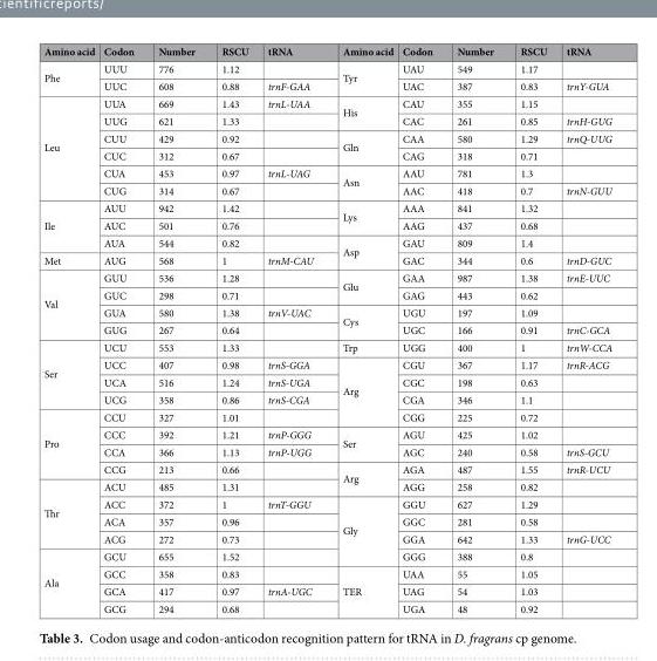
<table><thead><tr><td>Amino acid</td><td>Codon</td><td>Number</td><td>RSCU</td><td>tRNA</td><td>Amino acid</td><td>Codon</td><td>Number</td><td>RSCU</td><td>tRNA</td></tr></thead><tbody><tr><td rowspan="2">Phe</td><td>UUU</td><td>776</td><td>1.12</td><td></td><td rowspan="2">Tyr</td><td>UAU</td><td>549</td><td>1.17</td><td></td></tr><tr><td>UUC</td><td>608</td><td>0.88</td><td>trnF-GAA</td><td>UAC</td><td>387</td><td>0.83</td><td>trnY-GUA</td></tr><tr><td rowspan="6">Leu</td><td>UUA</td><td>669</td><td>1.43</td><td>trnL-UAA</td><td rowspan="2">His</td><td>CAU</td><td>355</td><td>1.15</td><td></td></tr><tr><td>UUG</td><td>621</td><td>1.33</td><td></td><td>CAC</td><td>261</td><td>0.85</td><td>trnH-GUG</td></tr><tr><td>CUU</td><td>429</td><td>0.92</td><td></td><td rowspan="2">Gln</td><td>CAA</td><td>580</td><td>1.29</td><td>trnQ-UUG</td></tr><tr><td>CUC</td><td>312</td><td>0.67</td><td></td><td>CAG</td><td>318</td><td>0.71</td><td></td></tr><tr><td>CUA</td><td>453</td><td>0.97</td><td>trnL-UAG</td><td rowspan="2">Asn</td><td>AAU</td><td>781</td><td>1.3</td><td></td></tr><tr><td>CUG</td><td>314</td><td>0.67</td><td></td><td>AAC</td><td>418</td><td>0.7</td><td>trnN-GUU</td></tr><tr><td rowspan="3">Ile</td><td>AUU</td><td>942</td><td>1.42</td><td></td><td rowspan="2">Lys</td><td>AAA</td><td>841</td><td>1.32</td><td></td></tr><tr><td>AUC</td><td>501</td><td>0.76</td><td></td><td>AAG</td><td>437</td><td>0.68</td><td></td></tr><tr><td>AUA</td><td>544</td><td>0.82</td><td></td><td rowspan="2">Asp</td><td>GAU</td><td>809</td><td>1.4</td><td></td></tr><tr><td>Met</td><td>AUG</td><td>568</td><td>1</td><td>trnM-CAU</td><td>GAC</td><td>344</td><td>0.6</td><td>trnD-GUC</td></tr><tr><td rowspan="4">Val</td><td>GUU</td><td>536</td><td>1.28</td><td></td><td rowspan="2">Glu</td><td>GAA</td><td>987</td><td>1.38</td><td>trnE-UUC</td></tr><tr><td>GUC</td><td>298</td><td>0.71</td><td></td><td>GAG</td><td>443</td><td>0.62</td><td></td></tr><tr><td>GUA</td><td>580</td><td>1.38</td><td>trnV-UAC</td><td rowspan="2">Cys</td><td>UGU</td><td>197</td><td>1.09</td><td></td></tr><tr><td>GUG</td><td>267</td><td>0.64</td><td></td><td>UGC</td><td>166</td><td>0.91</td><td>trnC-GCA</td></tr><tr><td rowspan="4">Ser</td><td>UCU</td><td>553</td><td>1.33</td><td></td><td>Trp</td><td>UGG</td><td>400</td><td>1</td><td>trnW-CCA</td></tr><tr><td>UCC</td><td>407</td><td>0.98</td><td>trnS-GGA</td><td rowspan="4">Arg</td><td>CGU</td><td>367</td><td>1.17</td><td>trnR-ACG</td></tr><tr><td>UCA</td><td>516</td><td>1.24</td><td>trnS-UGA</td><td>CGC</td><td>198</td><td>0.63</td><td></td></tr><tr><td>UCG</td><td>358</td><td>0.86</td><td>trnS-CGA</td><td>CGA</td><td>346</td><td>1.1</td><td></td></tr><tr><td rowspan="4">Pro</td><td>CCU</td><td>327</td><td>1.01</td><td></td><td>CGG</td><td>225</td><td>0.72</td><td></td></tr><tr><td>CCC</td><td>392</td><td>1.21</td><td>trnP-GGG</td><td rowspan="2">Ser</td><td>AGU</td><td>425</td><td>1.02</td><td></td></tr><tr><td>CCA</td><td>366</td><td>1.13</td><td>trnP-UGG</td><td>AGC</td><td>240</td><td>0.58</td><td>trnS-GCU</td></tr><tr><td>CCG</td><td>213</td><td>0.66</td><td></td><td rowspan="2">Arg</td><td>AGA</td><td>487</td><td>1.55</td><td>trnR-UCU</td></tr><tr><td rowspan="4">Thr</td><td>ACU</td><td>485</td><td>1.31</td><td></td><td>AGG</td><td>258</td><td>0.82</td><td></td></tr><tr><td>ACC</td><td>372</td><td>1</td><td>trnT-GGU</td><td rowspan="4">Gly</td><td>GGU</td><td>627</td><td>1.29</td><td></td></tr><tr><td>ACA</td><td>357</td><td>0.96</td><td></td><td>GGC</td><td>281</td><td>0.58</td><td></td></tr><tr><td>ACG</td><td>272</td><td>0.73</td><td></td><td>GGA</td><td>642</td><td>1.33</td><td>trnG-UCC</td></tr><tr><td rowspan="4">Ala</td><td>GCU</td><td>655</td><td>1.52</td><td></td><td>GGG</td><td>388</td><td>0.8</td><td></td></tr><tr><td>GCC</td><td>358</td><td>0.83</td><td></td><td rowspan="3">TER</td><td>UAA</td><td>55</td><td>1.05</td><td></td></tr><tr><td>GCA</td><td>417</td><td>0.97</td><td>trnA-UGC</td><td>UAG</td><td>54</td><td>1.03</td><td></td></tr><tr><td>GCG</td><td>294</td><td>0.68</td><td></td><td>UGA</td><td>48</td><td>0.92</td><td></td></tr></tbody></table>